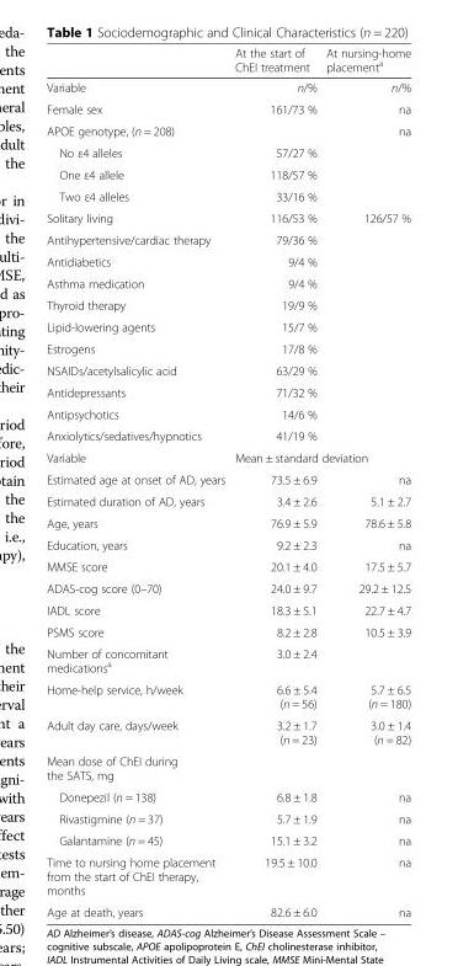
<table><thead><tr><td></td><td>At the start of ChEI treatment</td><td>At nursing-home placement<sup>a</sup></td></tr></thead><tbody><tr><td>Variable</td><td>n/%</td><td>n/%</td></tr><tr><td>Female sex</td><td>161/73 %</td><td>na</td></tr><tr><td>APOE genotype, (n = 208)</td><td></td><td>na</td></tr><tr><td>No ε4 alleles</td><td>57/27 %</td><td></td></tr><tr><td>One ε4 allele</td><td>118/57 %</td><td></td></tr><tr><td>Two ε4 alleles</td><td>33/16 %</td><td></td></tr><tr><td>Solitary living</td><td>116/53 %</td><td>126/57 %</td></tr><tr><td>Antihypertensive/cardiac therapy</td><td>79/36 %</td><td></td></tr><tr><td>Antidiabetics</td><td>9/4 %</td><td></td></tr><tr><td>Asthma medication</td><td>9/4 %</td><td></td></tr><tr><td>Thyroid therapy</td><td>19/9 %</td><td></td></tr><tr><td>Lipid-lowering agents</td><td>15/7 %</td><td></td></tr><tr><td>Estrogens</td><td>17/8 %</td><td></td></tr><tr><td>NSAIDs/acetylsalicylic acid</td><td>63/29 %</td><td></td></tr><tr><td>Antidepressants</td><td>71/32 %</td><td></td></tr><tr><td>Antipsychotics</td><td>14/6 %</td><td></td></tr><tr><td>Anxiolytics/sedatives/hypnotics</td><td>41/19 %</td><td></td></tr><tr><td>Variable</td><td colspan="2">Mean ± standard deviation</td></tr><tr><td>Estimated age at onset of AD, years</td><td>73.5 ± 6.9</td><td>na</td></tr><tr><td>Estimated duration of AD, years</td><td>3.4 ± 2.6</td><td>5.1 ± 2.7</td></tr><tr><td>Age, years</td><td>76.9 ± 5.9</td><td>78.6 ± 5.8</td></tr><tr><td>Education, years</td><td>9.2 ± 2.3</td><td>na</td></tr><tr><td>MMSE score</td><td>20.1 ± 4.0</td><td>17.5 ± 5.7</td></tr><tr><td>ADAS-cog score (0–70)</td><td>24.0 ± 9.7</td><td>29.2 ± 12.5</td></tr><tr><td>IADL score</td><td>18.3 ± 5.1</td><td>22.7 ± 4.7</td></tr><tr><td>PSMS score</td><td>8.2 ± 2.8</td><td>10.5 ± 3.9</td></tr><tr><td>Number of concomitant medications<sup>a</sup></td><td>3.0 ± 2.4</td><td></td></tr><tr><td>Home-help service, h/week</td><td>6.6 ± 5.4 (n = 56)</td><td>5.7 ± 6.5 (n = 180)</td></tr><tr><td>Adult day care, days/week</td><td>3.2 ± 1.7 (n = 23)</td><td>3.0 ± 1.4 (n = 82)</td></tr><tr><td colspan="3">Mean dose of ChEI during the SATS, mg</td></tr><tr><td>Donepezil (n = 138)</td><td>6.8 ± 1.8</td><td>na</td></tr><tr><td>Rivastigmine (n = 37)</td><td>5.7 ± 1.9</td><td>na</td></tr><tr><td>Galantamine (n = 45)</td><td>15.1 ± 3.2</td><td>na</td></tr><tr><td>Time to nursing home placement from the start of ChEI therapy, months</td><td>19.5 ± 10.0</td><td>na</td></tr><tr><td>Age at death, years</td><td>82.6 ± 6.0</td><td>na</td></tr></tbody></table>